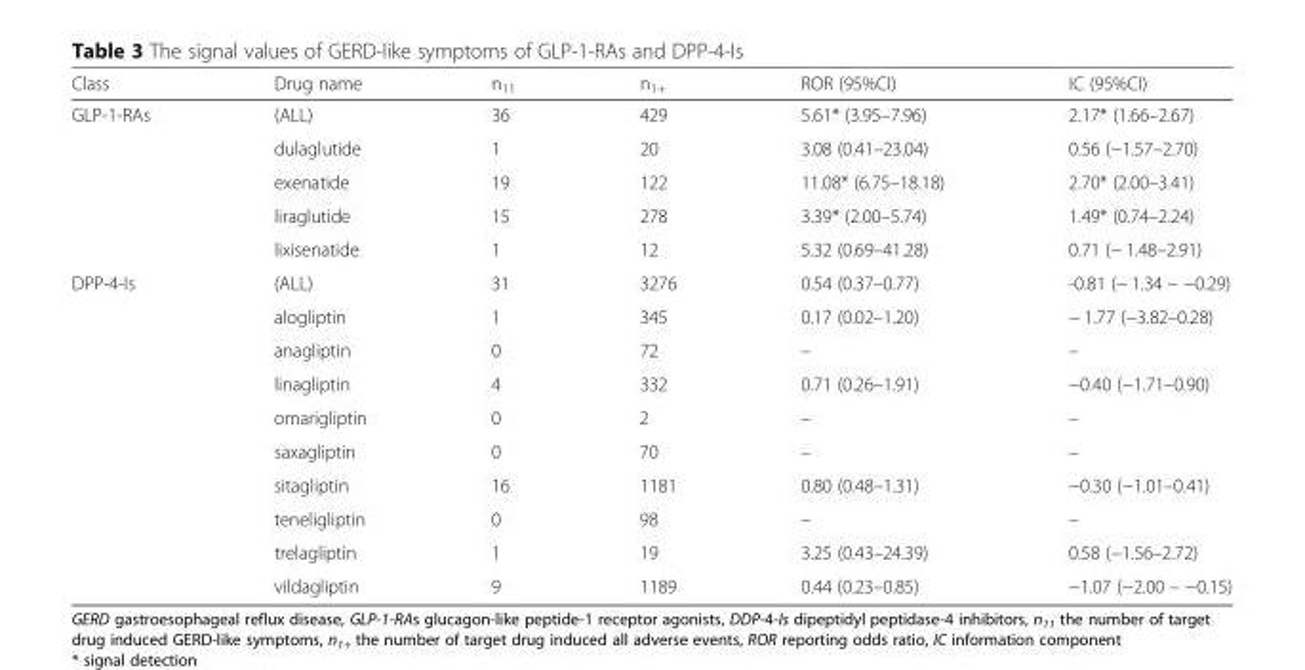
<table><thead><tr><td>Class</td><td>Drug name</td><td>n<sub>11</sub></td><td>n<sub>1+</sub></td><td>ROR (95%CI)</td><td>IC (95%CI)</td></tr></thead><tbody><tr><td rowspan="5">GLP-1-RAs</td><td>(ALL)</td><td>36</td><td>429</td><td>5.61* (3.95–7.96)</td><td>2.17* (1.66–2.67)</td></tr><tr><td>dulaglutide</td><td>1</td><td>20</td><td>3.08 (0.41–23.04)</td><td>0.56 (−1.57–2.70)</td></tr><tr><td>exenatide</td><td>19</td><td>122</td><td>11.08* (6.75–18.18)</td><td>2.70* (2.00–3.41)</td></tr><tr><td>liraglutide</td><td>15</td><td>278</td><td>3.39* (2.00–5.74)</td><td>1.49* (0.74–2.24)</td></tr><tr><td>lixisenatide</td><td>1</td><td>12</td><td>5.32 (0.69–41.28)</td><td>0.71 (− 1.48–2.91)</td></tr><tr><td rowspan="10">DPP-4-Is</td><td>(ALL)</td><td>31</td><td>3276</td><td>0.54 (0.37–0.77)</td><td>-0.81 (− 1.34 – −0.29)</td></tr><tr><td>alogliptin</td><td>1</td><td>345</td><td>0.17 (0.02–1.20)</td><td>− 1.77 (−3.82–0.28)</td></tr><tr><td>anagliptin</td><td>0</td><td>72</td><td>–</td><td>–</td></tr><tr><td>linagliptin</td><td>4</td><td>332</td><td>0.71 (0.26–1.91)</td><td>−0.40 (−1.71–0.90)</td></tr><tr><td>omarigliptin</td><td>0</td><td>2</td><td>–</td><td>–</td></tr><tr><td>saxagliptin</td><td>0</td><td>70</td><td>–</td><td>–</td></tr><tr><td>sitagliptin</td><td>16</td><td>1181</td><td>0.80 (0.48–1.31)</td><td>−0.30 (−1.01–0.41)</td></tr><tr><td>teneligliptin</td><td>0</td><td>98</td><td>–</td><td>–</td></tr><tr><td>trelagliptin</td><td>1</td><td>19</td><td>3.25 (0.43–24.39)</td><td>0.58 (−1.56–2.72)</td></tr><tr><td>vildagliptin</td><td>9</td><td>1189</td><td>0.44 (0.23–0.85)</td><td>−1.07 (−2.00 – −0.15)</td></tr></tbody></table>